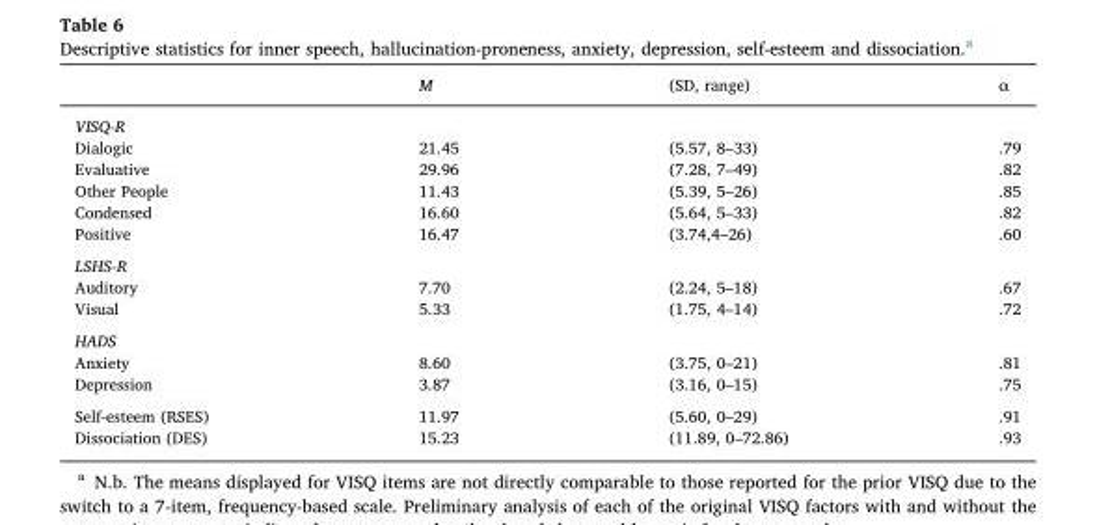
<table><thead><tr><td></td><td>M</td><td>(SD, range)</td><td>α</td></tr></thead><tbody><tr><td colspan="4">VISQ-R</td></tr><tr><td>Dialogic</td><td>21.45</td><td>(5.57, 8–33)</td><td>.79</td></tr><tr><td>Evaluative</td><td>29.96</td><td>(7.28, 7–49)</td><td>.82</td></tr><tr><td>Other People</td><td>11.43</td><td>(5.39, 5–26)</td><td>.85</td></tr><tr><td>Condensed</td><td>16.60</td><td>(5.64, 5–33)</td><td>.82</td></tr><tr><td>Positive</td><td>16.47</td><td>(3.74,4–26)</td><td>.60</td></tr><tr><td colspan="4">LSHS-R</td></tr><tr><td>Auditory</td><td>7.70</td><td>(2.24, 5–18)</td><td>.67</td></tr><tr><td>Visual</td><td>5.33</td><td>(1.75, 4–14)</td><td>.72</td></tr><tr><td colspan="4">HADS</td></tr><tr><td>Anxiety</td><td>8.60</td><td>(3.75, 0–21)</td><td>.81</td></tr><tr><td>Depression</td><td>3.87</td><td>(3.16, 0–15)</td><td>.75</td></tr><tr><td>Self-esteem (RSES)</td><td>11.97</td><td>(5.60, 0–29)</td><td>.91</td></tr><tr><td>Dissociation (DES)</td><td>15.23</td><td>(11.89, 0–72.86)</td><td>.93</td></tr></tbody></table>